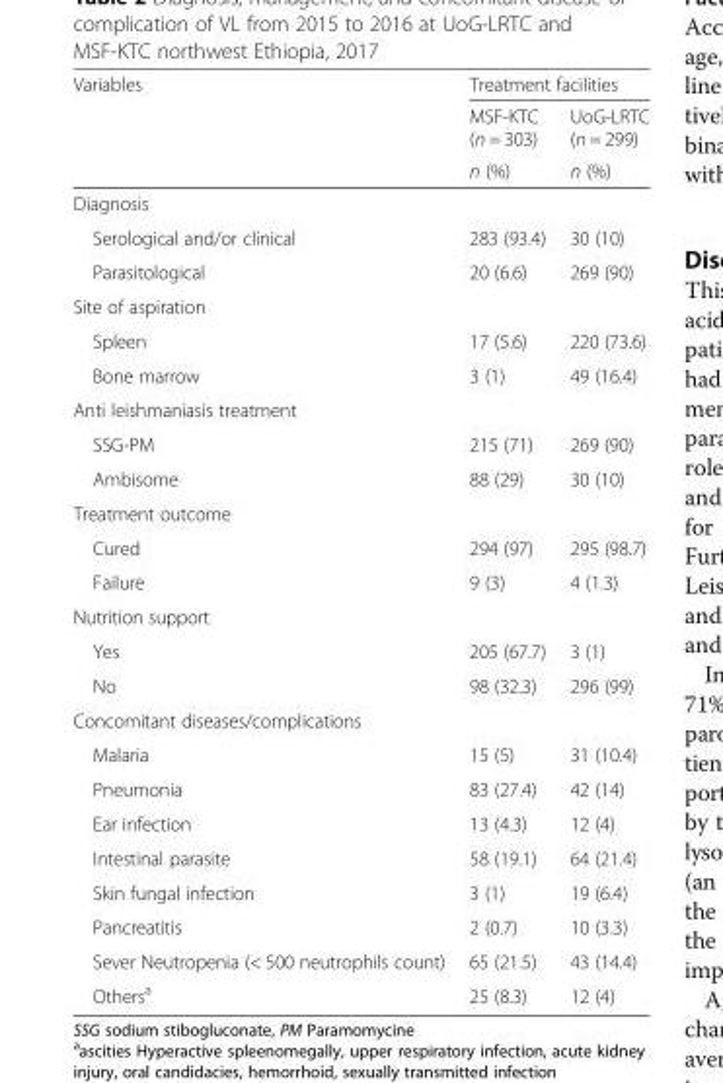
<table><thead><tr><td rowspan="3">Variables</td><td colspan="2">Treatment facilities</td></tr><tr><td rowspan="2">MSF-KTC (n = 303) n (%)</td><td rowspan="2">UoG-LRTC (n = 299) n (%)</td></tr><tr></tr></thead><tbody><tr><td colspan="3">Diagnosis</td></tr><tr><td>Serological and/or clinical</td><td>283 (93.4)</td><td>30 (10)</td></tr><tr><td>Parasitological</td><td>20 (6.6)</td><td>269 (90)</td></tr><tr><td colspan="3">Site of aspiration</td></tr><tr><td>Spleen</td><td>17 (5.6)</td><td>220 (73.6)</td></tr><tr><td>Bone marrow</td><td>3 (1)</td><td>49 (16.4)</td></tr><tr><td colspan="3">Anti leishmaniasis treatment</td></tr><tr><td>SSG-PM</td><td>215 (71)</td><td>269 (90)</td></tr><tr><td>Ambisome</td><td>88 (29)</td><td>30 (10)</td></tr><tr><td colspan="3">Treatment outcome</td></tr><tr><td>Cured</td><td>294 (97)</td><td>295 (98.7)</td></tr><tr><td>Failure</td><td>9 (3)</td><td>4 (1.3)</td></tr><tr><td colspan="3">Nutrition support</td></tr><tr><td>Yes</td><td>205 (67.7)</td><td>3 (1)</td></tr><tr><td>No</td><td>98 (32.3)</td><td>296 (99)</td></tr><tr><td colspan="3">Concomitant diseases/complications</td></tr><tr><td>Malaria</td><td>15 (5)</td><td>31 (10.4)</td></tr><tr><td>Pneumonia</td><td>83 (27.4)</td><td>42 (14)</td></tr><tr><td>Ear infection</td><td>13 (4.3)</td><td>12 (4)</td></tr><tr><td>Intestinal parasite</td><td>58 (19.1)</td><td>64 (21.4)</td></tr><tr><td>Skin fungal infection</td><td>3 (1)</td><td>19 (6.4)</td></tr><tr><td>Pancreatitis</td><td>2 (0.7)</td><td>10 (3.3)</td></tr><tr><td>Sever Neutropenia (&lt; 500 neutrophils count)</td><td>65 (21.5)</td><td>43 (14.4)</td></tr><tr><td>Others<sup>a</sup></td><td>25 (8.3)</td><td>12 (4)</td></tr></tbody></table>